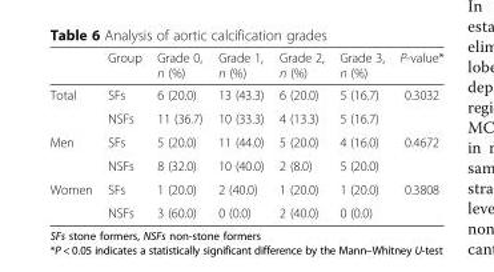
<table><thead><tr><td></td><td>Group</td><td>Grade 0, n (%)</td><td>Grade 1, n (%)</td><td>Grade 2, n (%)</td><td>Grade 3, n (%)</td><td>P-value*</td></tr></thead><tbody><tr><td rowspan="2">Total</td><td>SFs</td><td>6 (20.0)</td><td>13 (43.3)</td><td>6 (20.0)</td><td>5 (16.7)</td><td>0.3032</td></tr><tr><td>NSFs</td><td>11 (36.7)</td><td>10 (33.3)</td><td>4 (13.3)</td><td>5 (16.7)</td><td></td></tr><tr><td rowspan="2">Men</td><td>SFs</td><td>5 (20.0)</td><td>11 (44.0)</td><td>5 (20.0)</td><td>4 (16.0)</td><td>0.4672</td></tr><tr><td>NSFs</td><td>8 (32.0)</td><td>10 (40.0)</td><td>2 (8.0)</td><td>5 (20.0)</td><td></td></tr><tr><td rowspan="2">Women</td><td>SFs</td><td>1 (20.0)</td><td>2 (40.0)</td><td>1 (20.0)</td><td>1 (20.0)</td><td>0.3808</td></tr><tr><td>NSFs</td><td>3 (60.0)</td><td>0 (0.0)</td><td>2 (40.0)</td><td>0 (0.0)</td><td></td></tr></tbody></table>